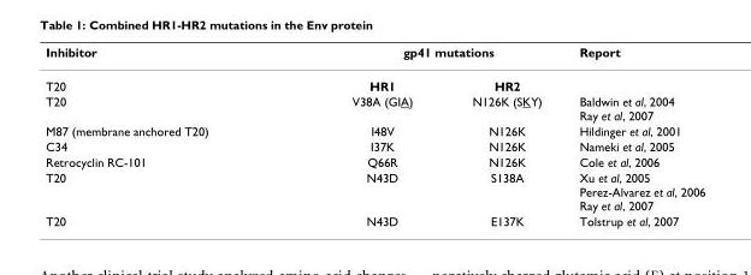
<table><thead><tr><td rowspan="2">Inhibitor T20</td><td colspan="2">gp41 mutations</td><td rowspan="2">Report</td></tr><tr><td>HR1</td><td>HR2</td></tr></thead><tbody><tr><td>T20</td><td>V38A (GIA)</td><td>N126K (SKY)</td><td>Baldwin et al, 2004 Ray et al, 2007</td></tr><tr><td>M87 (membrane anchored T20)</td><td>I48V</td><td>N126K</td><td>Hildinger et al, 2001</td></tr><tr><td>C34</td><td>I37K</td><td>N126K</td><td>Nameki et al, 2005</td></tr><tr><td>Retrocyclin RC-101</td><td>Q66R</td><td>N126K</td><td>Cole et al, 2006</td></tr><tr><td>T20</td><td>N43D</td><td>S138A</td><td>Xu et al, 2005 Perez-Alvarez et al, 2006 Ray et al, 2007</td></tr><tr><td>T20</td><td>N43D</td><td>E137K</td><td>Tolstrup et al, 2007</td></tr></tbody></table>